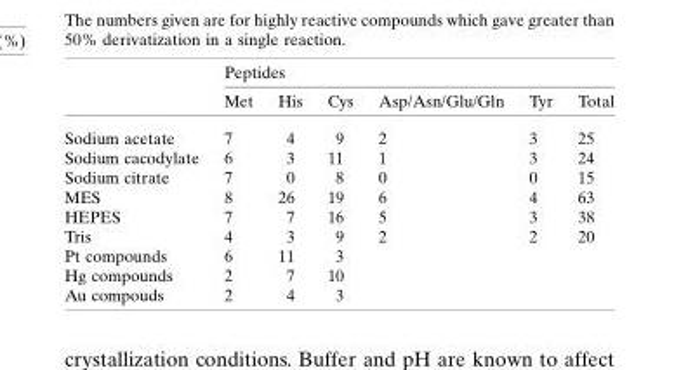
<table><thead><tr><td rowspan="2"></td><td colspan="6">Peptides</td></tr><tr><td>Met</td><td>His</td><td>Cys</td><td>Asp/Asn/Glu/Gln</td><td>Tyr</td><td>Total</td></tr></thead><tbody><tr><td>Sodium acetate</td><td>7</td><td>4</td><td>9</td><td>2</td><td>3</td><td>25</td></tr><tr><td>Sodium cacodylate</td><td>6</td><td>3</td><td>11</td><td>1</td><td>3</td><td>24</td></tr><tr><td>Sodium citrate</td><td>7</td><td>0</td><td>8</td><td>0</td><td>0</td><td>15</td></tr><tr><td>MES</td><td>8</td><td>26</td><td>19</td><td>6</td><td>4</td><td>63</td></tr><tr><td>HEPES</td><td>7</td><td>7</td><td>16</td><td>5</td><td>3</td><td>38</td></tr><tr><td>Tris</td><td>4</td><td>3</td><td>9</td><td>2</td><td>2</td><td>20</td></tr><tr><td>Pt compounds</td><td>6</td><td>11</td><td>3</td><td></td><td></td><td></td></tr><tr><td>Hg compounds</td><td>2</td><td>7</td><td>10</td><td></td><td></td><td></td></tr><tr><td>Au compouds</td><td>2</td><td>4</td><td>3</td><td></td><td></td><td></td></tr></tbody></table>